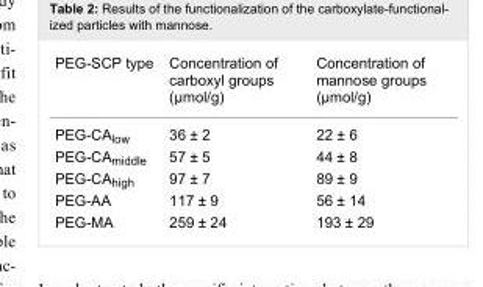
<table><tbody><tr><td>PEG-SCP type</td><td>Concentration of carboxyl groups (µmol/g)</td><td>Concentration of mannose groups (µmol/g)</td></tr><tr><td>PEG-CA<sub>low</sub></td><td>36 ± 2</td><td>22 ± 6</td></tr><tr><td>PEG-CA<sub>middle</sub></td><td>57 ± 5</td><td>44 ± 8</td></tr><tr><td>PEG-CA<sub>high</sub></td><td>97 ± 7</td><td>89 ± 9</td></tr><tr><td>PEG-AA</td><td>117 ± 9</td><td>56 ± 14</td></tr><tr><td>PEG-MA</td><td>259 ± 24</td><td>193 ± 29</td></tr></tbody></table>